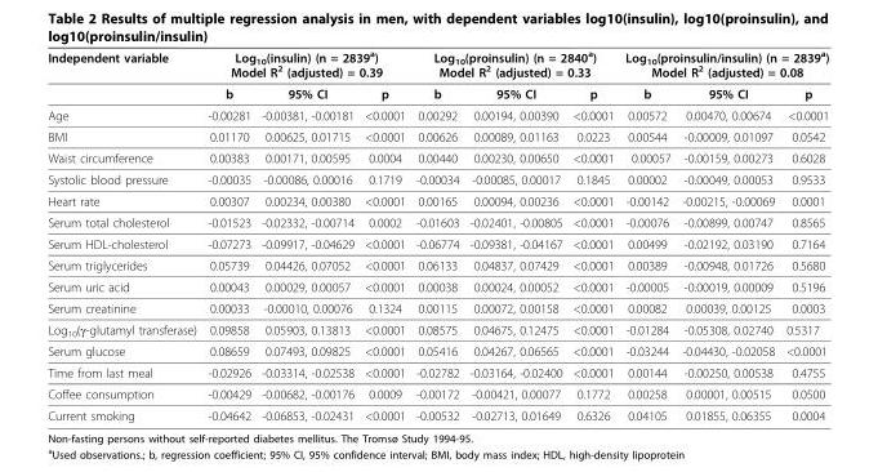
<table><thead><tr><td rowspan="2">Independent variable</td><td colspan="3">Log<sub>10</sub>(insulin) (n = 2839<sup>a</sup>) Model R<sup>2</sup> (adjusted) = 0.39</td><td colspan="3">Log<sub>10</sub>(proinsulin) (n = 2840<sup>a</sup>) Model R<sup>2</sup> (adjusted) = 0.33</td><td colspan="3">Log<sub>10</sub>(proinsulin/insulin) (n = 2839<sup>a</sup>) Model R<sup>2</sup> (adjusted) = 0.08</td></tr><tr><td>b</td><td>95% CI</td><td>p</td><td>b</td><td>95% CI</td><td>p</td><td>b</td><td>95% CI</td><td>p</td></tr></thead><tbody><tr><td>Age</td><td>-0.00281</td><td>-0.00381, -0.00181</td><td>&lt;0.0001</td><td>0.00292</td><td>0.00194, 0.00390</td><td>&lt;0.0001</td><td>0.00572</td><td>0.00470, 0.00674</td><td>&lt;0.0001</td></tr><tr><td>BMI</td><td>0.01170</td><td>0.00625, 0.01715</td><td>&lt;0.0001</td><td>0.00626</td><td>0.00089, 0.01163</td><td>0.0223</td><td>0.00544</td><td>-0.00009, 0.01097</td><td>0.0542</td></tr><tr><td>Waist circumference</td><td>0.00383</td><td>0.00171, 0.00595</td><td>0.0004</td><td>0.00440</td><td>0.00230, 0.00650</td><td>&lt;0.0001</td><td>0.00057</td><td>-0.00159, 0.00273</td><td>0.6028</td></tr><tr><td>Systolic blood pressure</td><td>-0.00035</td><td>-0.00086, 0.00016</td><td>0.1719</td><td>-0.00034</td><td>-0.00085, 0.00017</td><td>0.1845</td><td>0.00002</td><td>-0.00049, 0.00053</td><td>0.9533</td></tr><tr><td>Heart rate</td><td>0.00307</td><td>0.00234, 0.00380</td><td>&lt;0.0001</td><td>0.00165</td><td>0.00094, 0.00236</td><td>&lt;0.0001</td><td>-0.00142</td><td>-0.00215, -0.00069</td><td>0.0001</td></tr><tr><td>Serum total cholesterol</td><td>-0.01523</td><td>-0.02332, -0.00714</td><td>0.0002</td><td>-0.01603</td><td>-0.02401, -0.00805</td><td>&lt;0.0001</td><td>-0.00076</td><td>-0.00899, 0.00747</td><td>0.8565</td></tr><tr><td>Serum HDL-cholesterol</td><td>-0.07273</td><td>-0.09917, -0.04629</td><td>&lt;0.0001</td><td>-0.06774</td><td>-0.09381, -0.04167</td><td>&lt;0.0001</td><td>0.00499</td><td>-0.02192, 0.03190</td><td>0.7164</td></tr><tr><td>Serum triglycerides</td><td>0.05739</td><td>0.04426, 0.07052</td><td>&lt;0.0001</td><td>0.06133</td><td>0.04837, 0.07429</td><td>&lt;0.0001</td><td>0.00389</td><td>-0.00948, 0.01726</td><td>0.5680</td></tr><tr><td>Serum uric acid</td><td>0.00043</td><td>0.00029, 0.00057</td><td>&lt;0.0001</td><td>0.00038</td><td>0.00024, 0.00052</td><td>&lt;0.0001</td><td>-0.00005</td><td>-0.00019, 0.00009</td><td>0.5196</td></tr><tr><td>Serum creatinine</td><td>0.00033</td><td>-0.00010, 0.00076</td><td>0.1324</td><td>0.00115</td><td>0.00072, 0.00158</td><td>&lt;0.0001</td><td>0.00082</td><td>0.00039, 0.00125</td><td>0.0003</td></tr><tr><td>Log<sub>10</sub>(γ-glutamyl transferase)</td><td>0.09858</td><td>0.05903, 0.13813</td><td>&lt;0.0001</td><td>0.08575</td><td>0.04675, 0.12475</td><td>&lt;0.0001</td><td>-0.01284</td><td>-0.05308, 0.02740</td><td>0.5317</td></tr><tr><td>Serum glucose</td><td>0.08659</td><td>0.07493, 0.09825</td><td>&lt;0.0001</td><td>0.05416</td><td>0.04267, 0.06565</td><td>&lt;0.0001</td><td>-0.03244</td><td>-0.04430, -0.02058</td><td>&lt;0.0001</td></tr><tr><td>Time from last meal</td><td>-0.02926</td><td>-0.03314, -0.02538</td><td>&lt;0.0001</td><td>-0.02782</td><td>-0.03164, -0.02400</td><td>&lt;0.0001</td><td>0.00144</td><td>-0.00250, 0.00538</td><td>0.4755</td></tr><tr><td>Coffee consumption</td><td>-0.00429</td><td>-0.00682, -0.00176</td><td>0.0009</td><td>-0.00172</td><td>-0.00421, 0.00077</td><td>0.1772</td><td>0.00258</td><td>0.00001, 0.00515</td><td>0.0500</td></tr><tr><td>Current smoking</td><td>-0.04642</td><td>-0.06853, -0.02431</td><td>&lt;0.0001</td><td>-0.00532</td><td>-0.02713, 0.01649</td><td>0.6326</td><td>0.04105</td><td>0.01855, 0.06355</td><td>0.0004</td></tr></tbody></table>